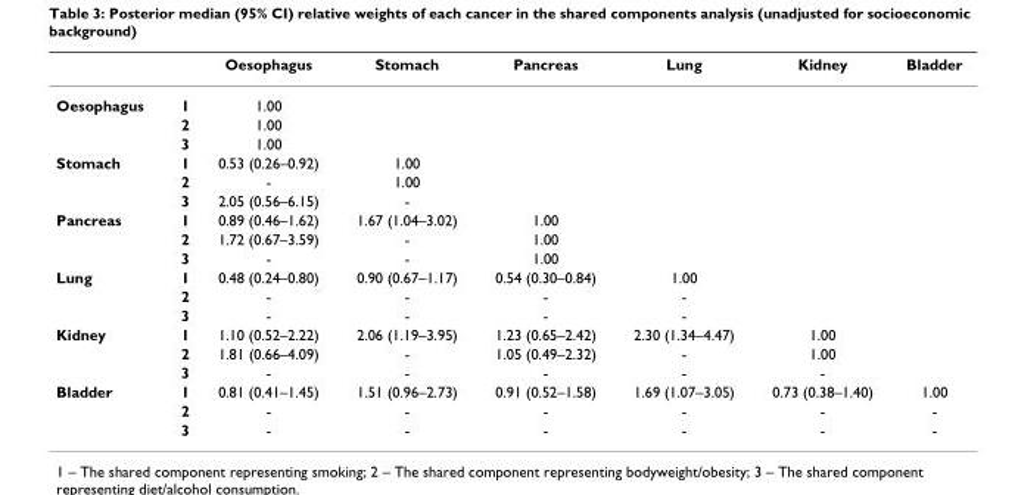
<table><thead><tr><td></td><td></td><td>Oesophagus</td><td>Stomach</td><td>Pancreas</td><td>Lung</td><td>Kidney</td><td>Bladder</td></tr></thead><tbody><tr><td rowspan="3">Oesophagus</td><td>1</td><td>1.00</td><td></td><td></td><td></td><td></td><td></td></tr><tr><td>2</td><td>1.00</td><td></td><td></td><td></td><td></td><td></td></tr><tr><td>3</td><td>1.00</td><td></td><td></td><td></td><td></td><td></td></tr><tr><td rowspan="3">Stomach</td><td>1</td><td>0.53 (0.26–0.92)</td><td>1.00</td><td></td><td></td><td></td><td></td></tr><tr><td>2</td><td>-</td><td>1.00</td><td></td><td></td><td></td><td></td></tr><tr><td>3</td><td>2.05 (0.56–6.15)</td><td>-</td><td></td><td></td><td></td><td></td></tr><tr><td rowspan="3">Pancreas</td><td>1</td><td>0.89 (0.46–1.62)</td><td>1.67 (1.04–3.02)</td><td>1.00</td><td></td><td></td><td></td></tr><tr><td>2</td><td>1.72 (0.67–3.59)</td><td>-</td><td>1.00</td><td></td><td></td><td></td></tr><tr><td>3</td><td>-</td><td>-</td><td>1.00</td><td></td><td></td><td></td></tr><tr><td rowspan="3">Lung</td><td>1</td><td>0.48 (0.24–0.80)</td><td>0.90 (0.67–1.17)</td><td>0.54 (0.30–0.84)</td><td>1.00</td><td></td><td></td></tr><tr><td>2</td><td>-</td><td>-</td><td>-</td><td>-</td><td></td><td></td></tr><tr><td>3</td><td>-</td><td>-</td><td>-</td><td>-</td><td></td><td></td></tr><tr><td rowspan="3">Kidney</td><td>1</td><td>1.10 (0.52–2.22)</td><td>2.06 (1.19–3.95)</td><td>1.23 (0.65–2.42)</td><td>2.30 (1.34–4.47)</td><td>1.00</td><td></td></tr><tr><td>2</td><td>1.81 (0.66–4.09)</td><td>-</td><td>1.05 (0.49–2.32)</td><td>-</td><td>1.00</td><td></td></tr><tr><td>3</td><td>-</td><td>-</td><td>-</td><td>-</td><td>-</td><td></td></tr><tr><td rowspan="3">Bladder</td><td>1</td><td>0.81 (0.41–1.45)</td><td>1.51 (0.96–2.73)</td><td>0.91 (0.52–1.58)</td><td>1.69 (1.07–3.05)</td><td>0.73 (0.38–1.40)</td><td>1.00</td></tr><tr><td>2</td><td>-</td><td>-</td><td>-</td><td>-</td><td>-</td><td>-</td></tr><tr><td>3</td><td>-</td><td>-</td><td>-</td><td>-</td><td>-</td><td>-</td></tr></tbody></table>